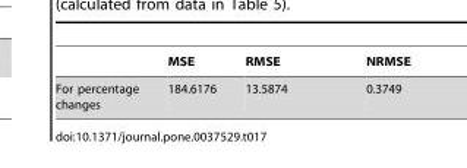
<table><thead><tr><td></td><td>MSE</td><td>RMSE</td><td>NRMSE</td></tr></thead><tbody><tr><td>For percentage changes</td><td>184.6176</td><td>13.5874</td><td>0.3749</td></tr></tbody></table>